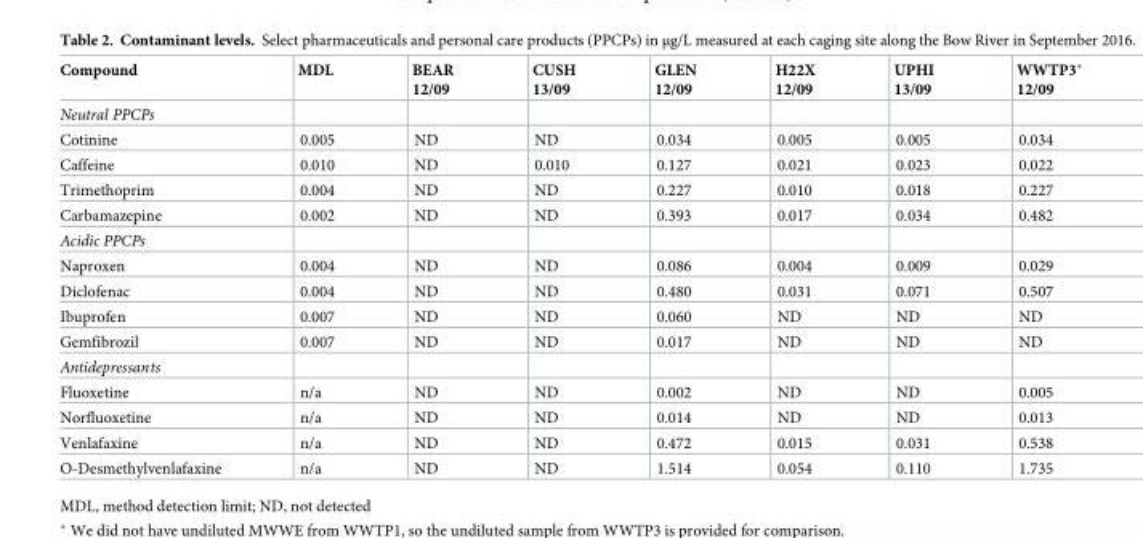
<table><thead><tr><td>Compound</td><td>MDL</td><td>BEAR 12/09</td><td>CUSH 13/09</td><td>GLEN 12/09</td><td>H22X 12/09</td><td>UPHI 13/09</td><td>WWTP3* 12/09</td></tr></thead><tbody><tr><td colspan="8">Neutral PPCPs</td></tr><tr><td>Cotinine</td><td>0.005</td><td>ND</td><td>ND</td><td>0.034</td><td>0.005</td><td>0.005</td><td>0.034</td></tr><tr><td>Caffeine</td><td>0.010</td><td>ND</td><td>0.010</td><td>0.127</td><td>0.021</td><td>0.023</td><td>0.022</td></tr><tr><td>Trimethoprim</td><td>0.004</td><td>ND</td><td>ND</td><td>0.227</td><td>0.010</td><td>0.018</td><td>0.227</td></tr><tr><td>Carbamazepine</td><td>0.002</td><td>ND</td><td>ND</td><td>0.393</td><td>0.017</td><td>0.034</td><td>0.482</td></tr><tr><td colspan="8">Acidic PPCPs</td></tr><tr><td>Naproxen</td><td>0.004</td><td>ND</td><td>ND</td><td>0.086</td><td>0.004</td><td>0.009</td><td>0.029</td></tr><tr><td>Diclofenac</td><td>0.004</td><td>ND</td><td>ND</td><td>0.480</td><td>0.031</td><td>0.071</td><td>0.507</td></tr><tr><td>Ibuprofen</td><td>0.007</td><td>ND</td><td>ND</td><td>0.060</td><td>ND</td><td>ND</td><td>ND</td></tr><tr><td>Gemfibrozil</td><td>0.007</td><td>ND</td><td>ND</td><td>0.017</td><td>ND</td><td>ND</td><td>ND</td></tr><tr><td colspan="8">Antidepressants</td></tr><tr><td>Fluoxetine</td><td>n/a</td><td>ND</td><td>ND</td><td>0.002</td><td>ND</td><td>ND</td><td>0.005</td></tr><tr><td>Norfluoxetine</td><td>n/a</td><td>ND</td><td>ND</td><td>0.014</td><td>ND</td><td>ND</td><td>0.013</td></tr><tr><td>Venlafaxine</td><td>n/a</td><td>ND</td><td>ND</td><td>0.472</td><td>0.015</td><td>0.031</td><td>0.538</td></tr><tr><td>O-Desmethylvenlafaxine</td><td>n/a</td><td>ND</td><td>ND</td><td>1.514</td><td>0.054</td><td>0.110</td><td>1.735</td></tr></tbody></table>